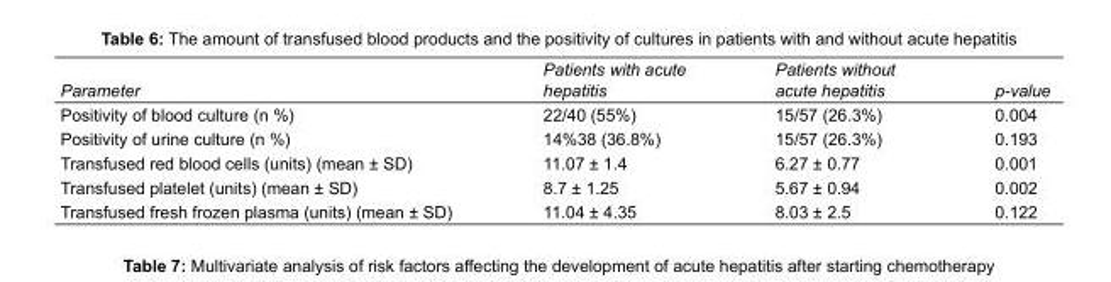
<table><tbody><tr><td>Parameter</td><td>Patients with acute hepatitis</td><td>Patients without acute hepatitis</td><td>p-value</td></tr><tr><td>Positivity of blood culture (n %)</td><td>22/40 (55%)</td><td>15/57 (26.3%)</td><td>0.004</td></tr><tr><td>Positivity of urine culture (n %)</td><td>14%38 (36.8%)</td><td>15/57 (26.3%)</td><td>0.193</td></tr><tr><td>Transfused red blood cells (units) (mean ± SD)</td><td>11.07 ± 1.4</td><td>6.27 ± 0.77</td><td>0.001</td></tr><tr><td>Transfused platelet (units) (mean ± SD)</td><td>8.7 ± 1.25</td><td>5.67 ± 0.94</td><td>0.002</td></tr><tr><td>Transfused fresh frozen plasma (units) (mean ± SD)</td><td>11.04 ± 4.35</td><td>8.03 ± 2.5</td><td>0.122</td></tr></tbody></table>